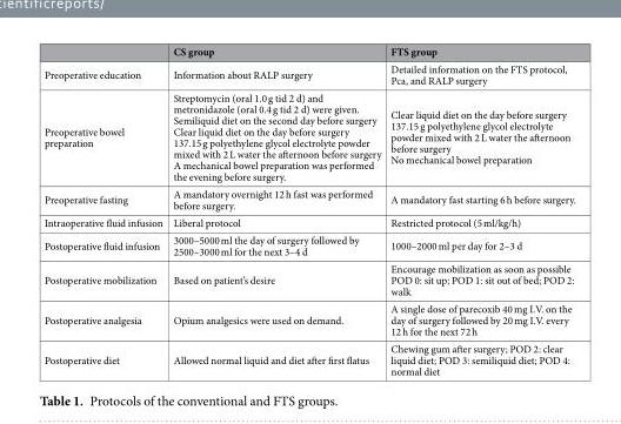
<table><thead><tr><td></td><td>CS group</td><td>FTS group</td></tr></thead><tbody><tr><td>Preoperative education</td><td>Information about RALP surgery</td><td>Detailed information on the FTS protocol, Pca, and RALP surgery</td></tr><tr><td>Preoperative bowel preparation</td><td>Streptomycin (oral 1.0 g tid 2 d) and metronidazole (oral 0.4 g tid 2 d) were given. Semiliquid diet on the second day before surgery Clear liquid diet on the day before surgery 137.15 g polyethylene glycol electrolyte powder mixed with 2 L water the afternoon before surgery A mechanical bowel preparation was performed the evening before surgery.</td><td>Clear liquid diet on the day before surgery 137.15 g polyethylene glycol electrolyte powder mixed with 2 L water the afternoon before surgery No mechanical bowel preparation</td></tr><tr><td>Preoperative fasting</td><td>A mandatory overnight 12 h fast was performed before surgery.</td><td>A mandatory fast starting 6 h before surgery.</td></tr><tr><td>Intraoperative fluid infusion</td><td>Liberal protocol</td><td>Restricted protocol (5 ml/kg/h)</td></tr><tr><td>Postoperative fluid infusion</td><td>3000–5000 ml the day of surgery followed by 2500–3000 ml for the next 3–4 d</td><td>1000–2000 ml per day for 2–3 d</td></tr><tr><td>Postoperative mobilization</td><td>Based on patient’s desire</td><td>Encourage mobilization as soon as possible POD 0: sit up; POD 1: sit out of bed; POD 2: walk</td></tr><tr><td>Postoperative analgesia</td><td>Opium analgesics were used on demand.</td><td>A single dose of parecoxib 40 mg I.V. on the day of surgery followed by 20 mg I.V. every 12 h for the next 72 h</td></tr><tr><td>Postoperative diet</td><td>Allowed normal liquid and diet after first flatus</td><td>Chewing gum after surgery; POD 2: clear liquid diet; POD 3: semiliquid diet; POD 4: normal diet</td></tr></tbody></table>